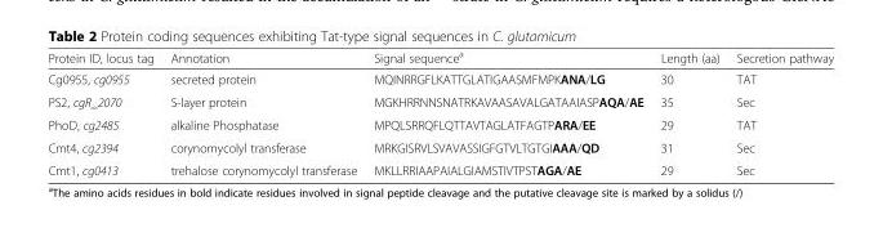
<table><thead><tr><td>Protein ID, locus tag</td><td>Annotation</td><td>Signal sequence<sup>a</sup></td><td>Length (aa)</td><td>Secretion pathway</td></tr></thead><tbody><tr><td>Cg0955, cg0955</td><td>secreted protein</td><td>MQINRRGFLKATTGLATIGAASMFMPKANA/LG</td><td>30</td><td>TAT</td></tr><tr><td>PS2, cgR_2070</td><td>S-layer protein</td><td>MGKHRRNNSNATRKAVAASAVALGATAAIASPAQA/AE</td><td>35</td><td>Sec</td></tr><tr><td>PhoD, cg2485</td><td>alkaline Phosphatase</td><td>MPQLSRRQFLQTTAVTAGLATFAGTPARA/EE</td><td>29</td><td>TAT</td></tr><tr><td>Cmt4, cg2394</td><td>corynomycolyl transferase</td><td>MRKGISRVLSVAVASSIGFGTVLTGTGIAAA/QD</td><td>31</td><td>Sec</td></tr><tr><td>Cmt1, cg0413</td><td>trehalose corynomycolyl transferase</td><td>MKLLRRIAAPAIALGIAMSTIVTPSTAGA/AE</td><td>29</td><td>Sec</td></tr></tbody></table>